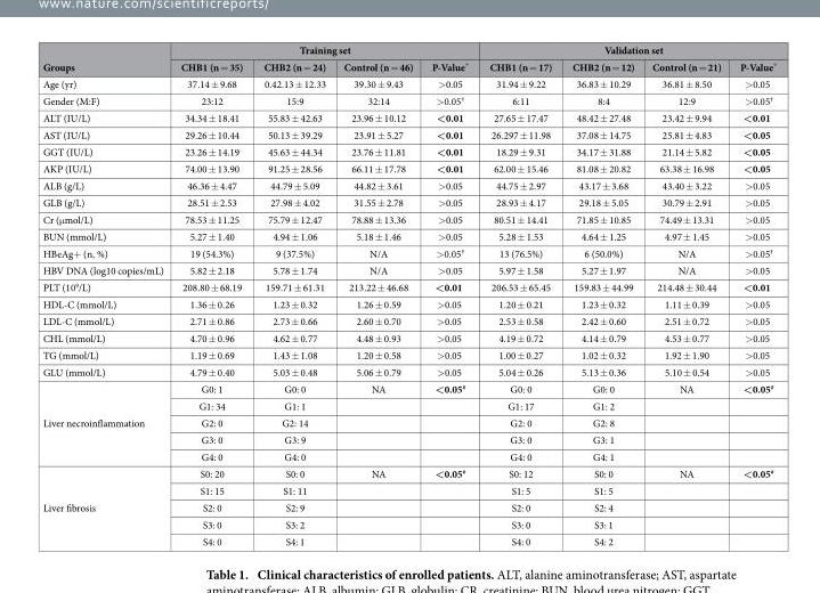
<table><thead><tr><td rowspan="2">Groups</td><td colspan="4">Training set</td><td colspan="4">Validation set</td></tr><tr><td>CHB1 (n = 35)</td><td>CHB2 (n = 24)</td><td>Control (n = 46)</td><td>P-Value*</td><td>CHB1 (n = 17)</td><td>CHB2 (n = 12)</td><td>Control (n = 21)</td><td>P-Value*</td></tr></thead><tbody><tr><td>Age (yr)</td><td>37.14 ± 9.68</td><td>0.42.13 ± 12.33</td><td>39.30 ± 9.43</td><td>&gt; 0.05</td><td>31.94 ± 9.22</td><td>36.83 ± 10.29</td><td>36.81 ± 8.50</td><td>&gt; 0.05</td></tr><tr><td>Gender (M:F)</td><td>23:12</td><td>15:9</td><td>32:14</td><td>&gt; 0.05†</td><td>6:11</td><td>8:4</td><td>12:9</td><td>&gt; 0.05†</td></tr><tr><td>ALT (IU/L)</td><td>34.34 ± 18.41</td><td>55.83 ± 42.63</td><td>23.96 ± 10.12</td><td>&lt; 0.01</td><td>27.65 ± 17.47</td><td>48.42 ± 27.48</td><td>23.42 ± 9.94</td><td>&lt;0.01</td></tr><tr><td>AST (IU/L)</td><td>29.26 ± 10.44</td><td>50.13 ± 39.29</td><td>23.91 ± 5.27</td><td>&lt;0.01</td><td>26.297 ± 11.98</td><td>37.08 ± 14.75</td><td>25.81 ± 4.83</td><td>&lt;0.05</td></tr><tr><td>GGT (IU/L)</td><td>23.26 ± 14.19</td><td>45.63 ± 44.34</td><td>23.76 ± 11.81</td><td>&lt;0.01</td><td>18.29 ± 9.31</td><td>34.17 ± 31.88</td><td>21.14 ± 5.82</td><td>&lt;0.05</td></tr><tr><td>AKP (IU/L)</td><td>74.00 ± 13.90</td><td>91.25 ± 28.56</td><td>66.11 ± 17.78</td><td>&lt;0.01</td><td>62.00 ± 15.46</td><td>81.08 ± 20.82</td><td>63.38 ± 16.98</td><td>&lt;0.05</td></tr><tr><td>ALB (g/L)</td><td>46.36 ± 4.47</td><td>44.79 ± 5.09</td><td>44.82 ± 3.61</td><td>&gt;0.05</td><td>44.75 ± 2.97</td><td>43.17 ± 3.68</td><td>43.40 ± 3.22</td><td>&gt; 0.05</td></tr><tr><td>GLB (g/L)</td><td>28.51 ± 2.53</td><td>27.98 ± 4.02</td><td>31.55 ± 2.78</td><td>&gt; 0.05</td><td>28.93 ± 4.17</td><td>29.18 ± 5.05</td><td>30.79 ± 2.91</td><td>&gt; 0.05</td></tr><tr><td>Cr (μ mol/L)</td><td>78.53 ± 11.25</td><td>75.79 ± 12.47</td><td>78.88 ± 13.36</td><td>&gt; 0.05</td><td>80.51 ± 14.41</td><td>71.85 ± 10.85</td><td>74.49 ± 13.31</td><td>&gt; 0.05</td></tr><tr><td>BUN (mmol/L)</td><td>5.27 ± 1.40</td><td>4.94 ± 1.06</td><td>5.18 ± 1.46</td><td>&gt; 0.05</td><td>5.28 ± 1.53</td><td>4.64 ± 1.25</td><td>4.97 ± 1.45</td><td>&gt; 0.05</td></tr><tr><td>HBeAg+ (n, %)</td><td>19 (54.3%)</td><td>9 (37.5%)</td><td>N/A</td><td>&gt; 0.05†</td><td>13 (76.5%)</td><td>6 (50.0%)</td><td>N/A</td><td>&gt; 0.05†</td></tr><tr><td>HBV DNA (log10 copies/mL)</td><td>5.82 ± 2.18</td><td>5.78 ± 1.74</td><td>N/A</td><td>&gt; 0.05</td><td>5.97 ± 1.58</td><td>5.27 ± 1.97</td><td>N/A</td><td>&gt; 0.05</td></tr><tr><td>PLT (10<sup>9</sup>/L)</td><td>208.80 ± 68.19</td><td>159.71 ± 61.31</td><td>213.22 ± 46.68</td><td>&lt;0.01</td><td>206.53 ± 65.45</td><td>159.83 ± 44.99</td><td>214.48 ± 30.44</td><td>&lt;0.01</td></tr><tr><td>HDL-C (mmol/L)</td><td>1.36 ± 0.26</td><td>1.23 ± 0.32</td><td>1.26 ± 0.59</td><td>&gt; 0.05</td><td>1.20 ± 0.21</td><td>1.23 ± 0.32</td><td>1.11 ± 0.39</td><td>&gt; 0.05</td></tr><tr><td>LDL-C (mmol/L)</td><td>2.71 ± 0.86</td><td>2.73 ± 0.66</td><td>2.60 ± 0.70</td><td>&gt; 0.05</td><td>2.53 ± 0.58</td><td>2.42 ± 0.60</td><td>2.51 ± 0.72</td><td>&gt; 0.05</td></tr><tr><td>CHL (mmol/L)</td><td>4.70 ± 0.96</td><td>4.62 ± 0.77</td><td>4.48 ± 0.93</td><td>&gt; 0.05</td><td>4.19 ± 0.72</td><td>4.14 ± 0.79</td><td>4.53 ± 0.77</td><td>&gt; 0.05</td></tr><tr><td>TG (mmol/L)</td><td>1.19 ± 0.69</td><td>1.43 ± 1.08</td><td>1.20 ± 0.58</td><td>&gt; 0.05</td><td>1.00 ± 0.27</td><td>1.02 ± 0.32</td><td>1.92 ± 1.90</td><td>&gt; 0.05</td></tr><tr><td>GLU (mmol/L)</td><td>4.79 ± 0.40</td><td>5.03 ± 0.48</td><td>5.06 ± 0.79</td><td>&gt; 0.05</td><td>5.04 ± 0.26</td><td>5.13 ± 0.36</td><td>5.10 ± 0.54</td><td>&gt; 0.05</td></tr><tr><td rowspan="5">Liver necroinflammation</td><td>G0: 1</td><td>G0: 0</td><td>NA</td><td>&lt; 0.05#</td><td>G0: 0</td><td>G0: 0</td><td>NA</td><td>&lt; 0.05#</td></tr><tr><td>G1: 34</td><td>G1: 1</td><td></td><td></td><td>G1: 17</td><td>G1: 2</td><td></td><td></td></tr><tr><td>G2: 0</td><td>G2: 14</td><td></td><td></td><td>G2: 0</td><td>G2: 8</td><td></td><td></td></tr><tr><td>G3: 0</td><td>G3: 9</td><td></td><td></td><td>G3: 0</td><td>G3: 1</td><td></td><td></td></tr><tr><td>G4: 0</td><td>G4: 0</td><td></td><td></td><td>G4: 0</td><td>G4: 1</td><td></td><td></td></tr><tr><td rowspan="5">Liver fibrosis</td><td>S0: 20</td><td>S0: 0</td><td>NA</td><td>&lt; 0.05#</td><td>S0: 12</td><td>S0: 0</td><td>NA</td><td>&lt; 0.05#</td></tr><tr><td>S1: 15</td><td>S1: 11</td><td></td><td></td><td>S1: 5</td><td>S1: 5</td><td></td><td></td></tr><tr><td>S2: 0</td><td>S2: 9</td><td></td><td></td><td>S2: 0</td><td>S2: 4</td><td></td><td></td></tr><tr><td>S3: 0</td><td>S3: 2</td><td></td><td></td><td>S3: 0</td><td>S3: 1</td><td></td><td></td></tr><tr><td>S4: 0</td><td>S4: 1</td><td></td><td></td><td>S4: 0</td><td>S4: 2</td><td></td><td></td></tr></tbody></table>